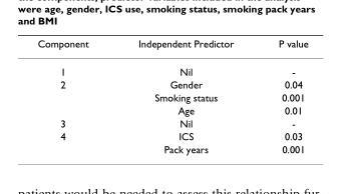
<table><thead><tr><td>Component</td><td>Independent Predictor</td><td>P value</td></tr></thead><tbody><tr><td>1</td><td>Nil</td><td>-</td></tr><tr><td rowspan="3">2</td><td>Gender</td><td>0.04</td></tr><tr><td>Smoking status</td><td>0.001</td></tr><tr><td>Age</td><td>0.01</td></tr><tr><td>3</td><td>Nil</td><td>-</td></tr><tr><td rowspan="2">4</td><td>ICS</td><td>0.03</td></tr><tr><td>Pack years</td><td>0.001</td></tr></tbody></table>